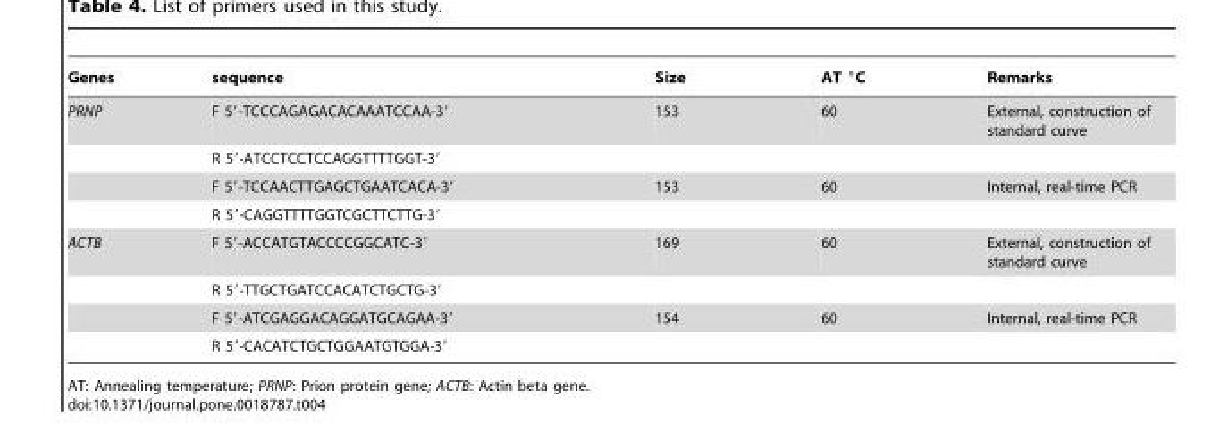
<table><thead><tr><td>Genes</td><td>sequence</td><td>Size</td><td>AT °C</td><td>Remarks</td></tr></thead><tbody><tr><td rowspan="4">PRNP</td><td>F 5′-TCCCAGAGACACAAATCCAA-3′</td><td>153</td><td>60</td><td>External, construction of standard curve</td></tr><tr><td>R 5′-ATCCTCCTCCAGGTTTTGGT-3′</td><td></td><td></td><td></td></tr><tr><td>F 5′-TCCAACTTGAGCTGAATCACA-3′</td><td>153</td><td>60</td><td>Internal, real-time PCR</td></tr><tr><td>R 5′-CAGGTTTTGGTCGCTTCTTG-3′</td><td></td><td></td><td></td></tr><tr><td rowspan="4">ACTB</td><td>F 5′-ACCATGTACCCCGGCATC-3′</td><td>169</td><td>60</td><td>External, construction of standard curve</td></tr><tr><td>R 5′-TTGCTGATCCACATCTGCTG-3′</td><td></td><td></td><td></td></tr><tr><td>F 5′-ATCGAGGACAGGATGCAGAA-3′</td><td>154</td><td>60</td><td>Internal, real-time PCR</td></tr><tr><td>R 5′-CACATCTGCTGGAATGTGGA-3′</td><td></td><td></td><td></td></tr></tbody></table>